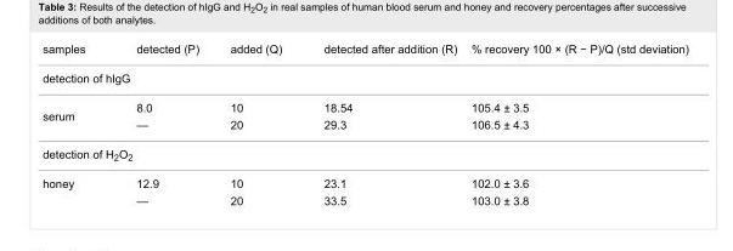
<table><tbody><tr><td>samples</td><td>detected (P)</td><td>added (Q)</td><td>detected after addition (R)</td><td>% recovery 100 × (R − P)/Q (std deviation)</td></tr><tr><td colspan="5">detection of hIgG</td></tr><tr><td rowspan="2">serum</td><td>8.0</td><td>10</td><td>18.54</td><td>105.4 ± 3.5</td></tr><tr><td>—</td><td>20</td><td>29.3</td><td>106.5 ± 4.3</td></tr><tr><td colspan="5">detection of H<sub>2</sub>O<sub>2</sub></td></tr><tr><td rowspan="2">honey</td><td>12.9</td><td>10</td><td>23.1</td><td>102.0 ± 3.6</td></tr><tr><td>—</td><td>20</td><td>33.5</td><td>103.0 ± 3.8</td></tr></tbody></table>